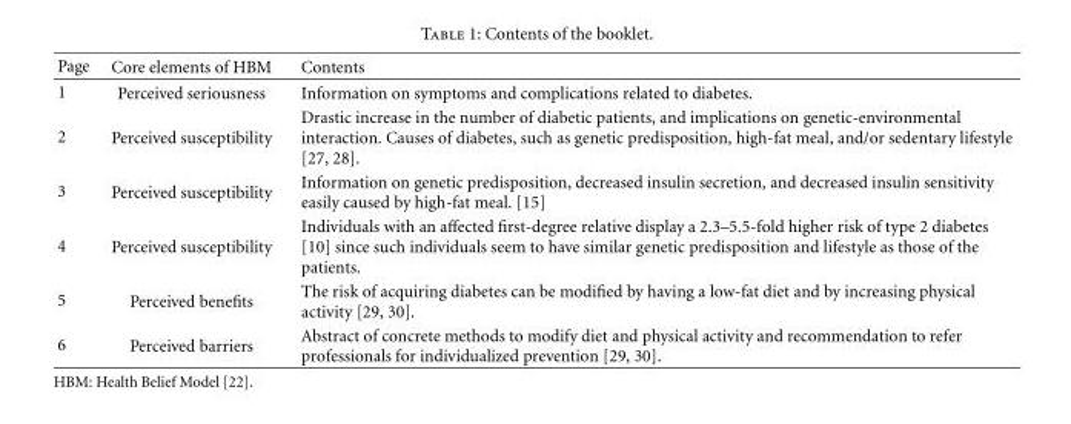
<table><thead><tr><td>Page</td><td>Core elements of HBM</td><td>Contents</td></tr></thead><tbody><tr><td>1</td><td>Perceived seriousness</td><td>Information on symptoms and complications related to diabetes.</td></tr><tr><td>2</td><td>Perceived susceptibility</td><td>Drastic increase in the number of diabetic patients, and implications on genetic-environmental interaction. Causes of diabetes, such as genetic predisposition, high-fat meal, and/or sedentary lifestyle [27, 28].</td></tr><tr><td>3</td><td>Perceived susceptibility</td><td>Information on genetic predisposition, decreased insulin secretion, and decreased insulin sensitivity easily caused by high-fat meal. [15]</td></tr><tr><td>4</td><td>Perceived susceptibility</td><td>Individuals with an affected first-degree relative display a 2.3–5.5-fold higher risk of type 2 diabetes [10] since such individuals seem to have similar genetic predisposition and lifestyle as those of the patients.</td></tr><tr><td>5</td><td>Perceived benefits</td><td>The risk of acquiring diabetes can be modified by having a low-fat diet and by increasing physical activity [29, 30].</td></tr><tr><td>6</td><td>Perceived barriers</td><td>Abstract of concrete methods to modify diet and physical activity and recommendation to refer professionals for individualized prevention [29, 30].</td></tr></tbody></table>